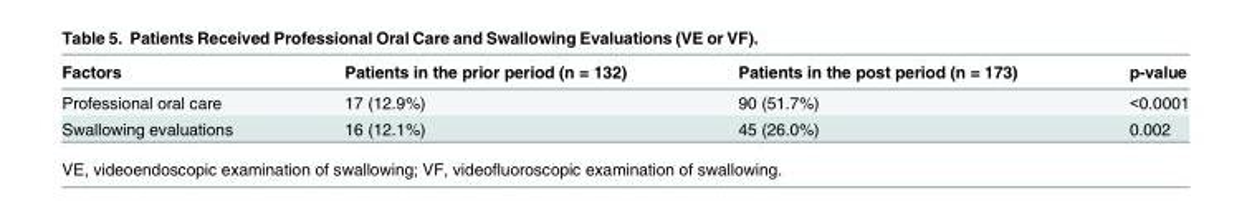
<table><thead><tr><td>Factors</td><td>Patients in the prior period (n = 132)</td><td>Patients in the post period (n = 173)</td><td>p-value</td></tr></thead><tbody><tr><td>Professional oral care</td><td>17 (12.9%)</td><td>90 (51.7%)</td><td>&lt;0.0001</td></tr><tr><td>Swallowing evaluations</td><td>16 (12.1%)</td><td>45 (26.0%)</td><td>0.002</td></tr></tbody></table>